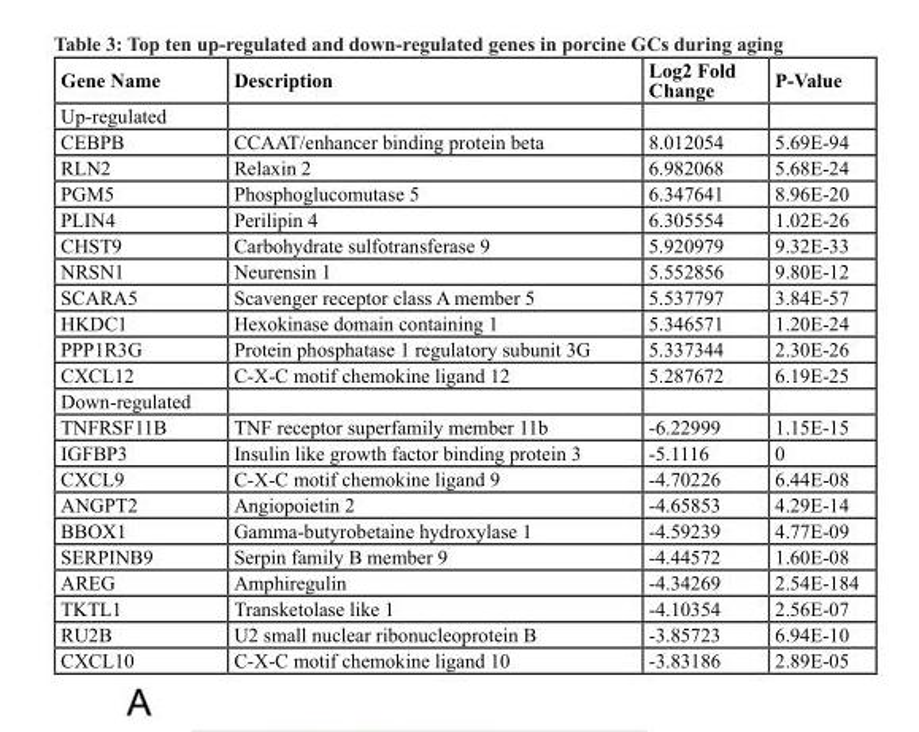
<table><thead><tr><td>Gene Name</td><td>Description</td><td>Log2 Fold Change</td><td>P-Value</td></tr></thead><tbody><tr><td colspan="4">Up-regulated</td></tr><tr><td>CEBPB</td><td>CCAAT/enhancer binding protein beta</td><td>8.012054</td><td>5.69E-94</td></tr><tr><td>RLN2</td><td>Relaxin 2</td><td>6.982068</td><td>5.68E-24</td></tr><tr><td>PGM5</td><td>Phosphoglucomutase 5</td><td>6.347641</td><td>8.96E-20</td></tr><tr><td>PLIN4</td><td>Perilipin 4</td><td>6.305554</td><td>1.02E-26</td></tr><tr><td>CHST9</td><td>Carbohydrate sulfotransferase 9</td><td>5.920979</td><td>9.32E-33</td></tr><tr><td>NRSN1</td><td>Neurensin 1</td><td>5.552856</td><td>9.80E-12</td></tr><tr><td>SCARA5</td><td>Scavenger receptor class A member 5</td><td>5.537797</td><td>3.84E-57</td></tr><tr><td>HKDC1</td><td>Hexokinase domain containing 1</td><td>5.346571</td><td>1.20E-24</td></tr><tr><td>PPP1R3G</td><td>Protein phosphatase 1 regulatory subunit 3G</td><td>5.337344</td><td>2.30E-26</td></tr><tr><td>CXCL12</td><td>C-X-C motif chemokine ligand 12</td><td>5.287672</td><td>6.19E-25</td></tr><tr><td colspan="4">Down-regulated</td></tr><tr><td>TNFRSF11B</td><td>TNF receptor superfamily member 11b</td><td>-6.22999</td><td>1.15E-15</td></tr><tr><td>IGFBP3</td><td>Insulin like growth factor binding protein 3</td><td>-5.1116</td><td>0</td></tr><tr><td>CXCL9</td><td>C-X-C motif chemokine ligand 9</td><td>-4.70226</td><td>6.44E-08</td></tr><tr><td>ANGPT2</td><td>Angiopoietin 2</td><td>-4.65853</td><td>4.29E-14</td></tr><tr><td>BBOX1</td><td>Gamma-butyrobetaine hydroxylase 1</td><td>-4.59239</td><td>4.77E-09</td></tr><tr><td>SERPINB9</td><td>Serpin family B member 9</td><td>-4.44572</td><td>1.60E-08</td></tr><tr><td>AREG</td><td>Amphiregulin</td><td>-4.34269</td><td>2.54E-184</td></tr><tr><td>TKTL1</td><td>Transketolase like 1</td><td>-4.10354</td><td>2.56E-07</td></tr><tr><td>RU2B</td><td>U2 small nuclear ribonucleoprotein B</td><td>-3.85723</td><td>6.94E-10</td></tr><tr><td>CXCL10</td><td>C-X-C motif chemokine ligand 10</td><td>-3.83186</td><td>2.89E-05</td></tr></tbody></table>